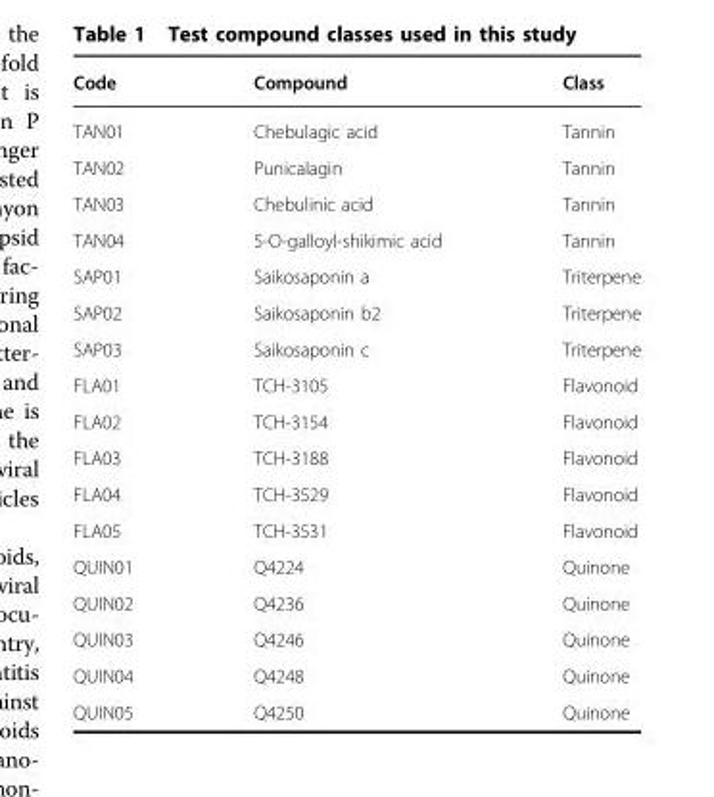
<table><thead><tr><td>Code</td><td>Compound</td><td>Class</td></tr></thead><tbody><tr><td>TAN01</td><td>Chebulagic acid</td><td>Tannin</td></tr><tr><td>TAN02</td><td>Punicalagin</td><td>Tannin</td></tr><tr><td>TAN03</td><td>Chebulinic acid</td><td>Tannin</td></tr><tr><td>TAN04</td><td>5-O-galloyl-shikimic acid</td><td>Tannin</td></tr><tr><td>SAP01</td><td>Saikosaponin a</td><td>Triterpene</td></tr><tr><td>SAP02</td><td>Saikosaponin b2</td><td>Triterpene</td></tr><tr><td>SAP03</td><td>Saikosaponin c</td><td>Triterpene</td></tr><tr><td>FLA01</td><td>TCH-3105</td><td>Flavonoid</td></tr><tr><td>FLA02</td><td>TCH-3154</td><td>Flavonoid</td></tr><tr><td>FLA03</td><td>TCH-3188</td><td>Flavonoid</td></tr><tr><td>FLA04</td><td>TCH-3529</td><td>Flavonoid</td></tr><tr><td>FLA05</td><td>TCH-3531</td><td>Flavonoid</td></tr><tr><td>QUIN01</td><td>Q4224</td><td>Quinone</td></tr><tr><td>QUIN02</td><td>Q4236</td><td>Quinone</td></tr><tr><td>QUIN03</td><td>Q4246</td><td>Quinone</td></tr><tr><td>QUIN04</td><td>Q4248</td><td>Quinone</td></tr><tr><td>QUIN05</td><td>Q4250</td><td>Quinone</td></tr></tbody></table>